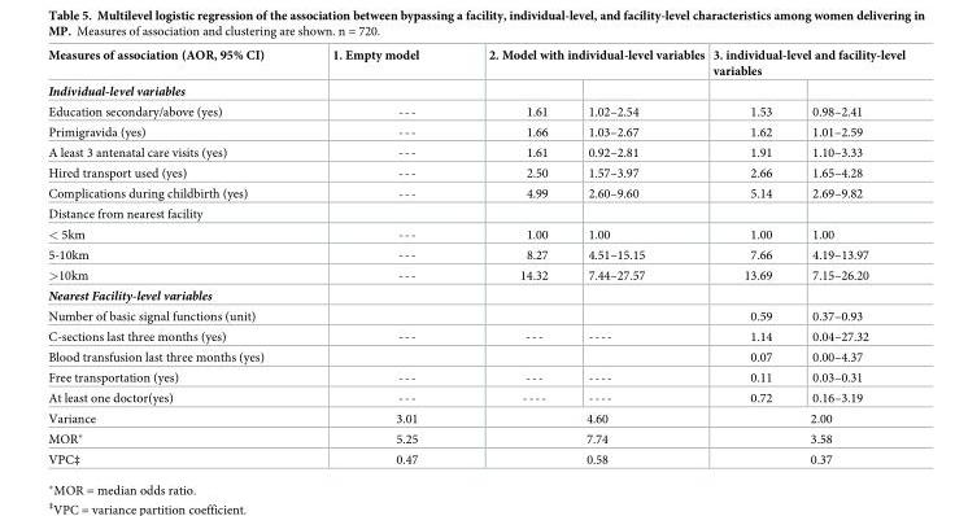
<table><thead><tr><td rowspan="2">Measures of association (AOR, 95% CI) Individual-level variables</td><td rowspan="2">1. Empty model</td><td colspan="2">2. Model with individual-level variables</td><td colspan="2">3. individual-level and facility-level variables</td></tr><tr><td></td><td></td><td></td><td></td></tr></thead><tbody><tr><td>Education secondary/above (yes)</td><td>---</td><td>1.61</td><td>1.02–2.54</td><td>1.53</td><td>0.98–2.41</td></tr><tr><td>Primigravida (yes)</td><td>---</td><td>1.66</td><td>1.03–2.67</td><td>1.62</td><td>1.01–2.59</td></tr><tr><td>A least 3 antenatal care visits (yes)</td><td>---</td><td>1.61</td><td>0.92–2.81</td><td>1.91</td><td>1.10–3.33</td></tr><tr><td>Hired transport used (yes)</td><td>---</td><td>2.50</td><td>1.57–3.97</td><td>2.66</td><td>1.65–4.28</td></tr><tr><td>Complications during childbirth (yes)</td><td>---</td><td>4.99</td><td>2.60–9.60</td><td>5.14</td><td>2.69–9.82</td></tr><tr><td colspan="6">Distance from nearest facility</td></tr><tr><td>&lt; 5km</td><td>---</td><td>1.00</td><td>1.00</td><td>1.00</td><td>1.00</td></tr><tr><td>5-10km</td><td>---</td><td>8.27</td><td>4.51–15.15</td><td>7.66</td><td>4.19–13.97</td></tr><tr><td>&gt;10km</td><td>---</td><td>14.32</td><td>7.44–27.57</td><td>13.69</td><td>7.15–26.20</td></tr><tr><td colspan="6">Nearest Facility-level variables</td></tr><tr><td>Number of basic signal functions (unit)</td><td></td><td></td><td></td><td>0.59</td><td>0.37–0.93</td></tr><tr><td>C-sections last three months (yes)</td><td>---</td><td>---</td><td>----</td><td>1.14</td><td>0.04–27.32</td></tr><tr><td>Blood transfusion last three months (yes)</td><td></td><td></td><td></td><td>0.07</td><td>0.00–4.37</td></tr><tr><td>Free transportation (yes)</td><td>---</td><td>---</td><td>----</td><td>0.11</td><td>0.03–0.31</td></tr><tr><td>At least one doctor(yes)</td><td>---</td><td>----</td><td>----</td><td>0.72</td><td>0.16–3.19</td></tr><tr><td>Variance</td><td>3.01</td><td colspan="2">4.60</td><td colspan="2">2.00</td></tr><tr><td>MOR*</td><td>5.25</td><td colspan="2">7.74</td><td colspan="2">3.58</td></tr><tr><td>VPC‡</td><td>0.47</td><td colspan="2">0.58</td><td colspan="2">0.37</td></tr></tbody></table>